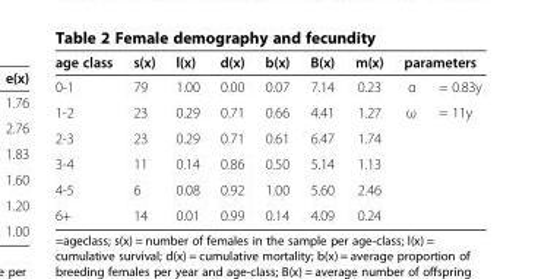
<table><thead><tr><td rowspan="2">age class 0-1</td><td rowspan="2">s(x) 79</td><td rowspan="2">l(x) 1.00</td><td rowspan="2">d(x) 0.00</td><td rowspan="2">b(x) 0.07</td><td rowspan="2">B(x) 7.14</td><td rowspan="2">m(x) 0.23</td><td colspan="2">parameters</td></tr><tr><td>α</td><td>= 0.83y</td></tr></thead><tbody><tr><td>1-2</td><td>23</td><td>0.29</td><td>0.71</td><td>0.66</td><td>4.41</td><td>1.27</td><td>ω</td><td>= 11y</td></tr><tr><td>2-3</td><td>23</td><td>0.29</td><td>0.71</td><td>0.61</td><td>6.47</td><td>1.74</td><td></td><td></td></tr><tr><td>3-4</td><td>11</td><td>0.14</td><td>0.86</td><td>0.50</td><td>5.14</td><td>1.13</td><td></td><td></td></tr><tr><td>4-5</td><td>6</td><td>0.08</td><td>0.92</td><td>1.00</td><td>5.60</td><td>2.46</td><td></td><td></td></tr><tr><td>6+</td><td>14</td><td>0.01</td><td>0.99</td><td>0.14</td><td>4.09</td><td>0.24</td><td></td><td></td></tr></tbody></table>